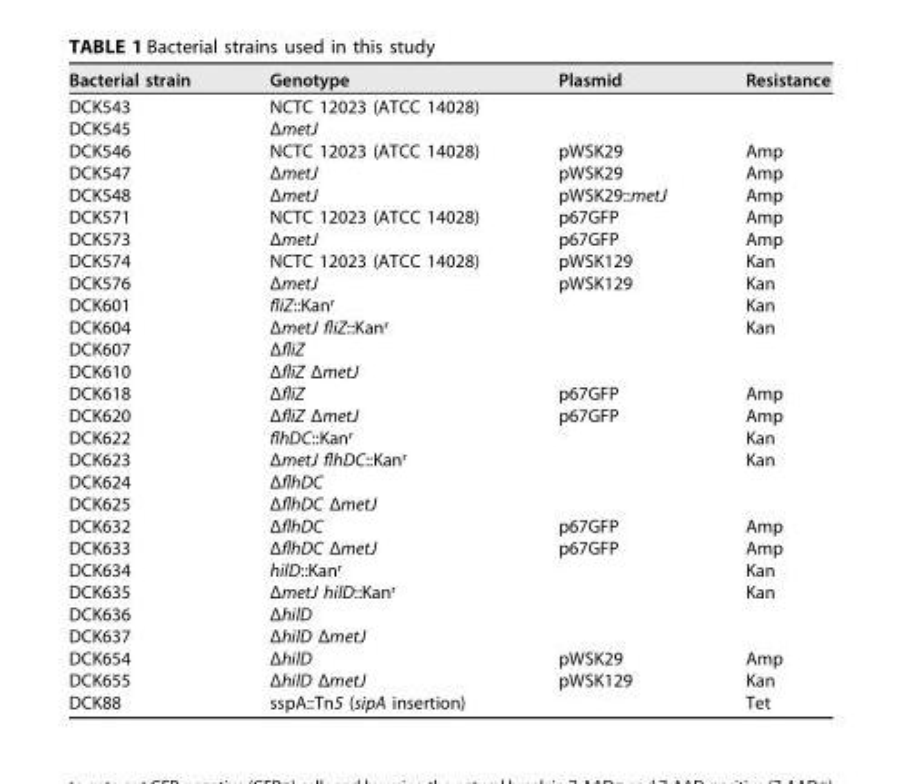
<table><thead><tr><td>Bacterial strain</td><td>Genotype</td><td>Plasmid</td><td>Resistance</td></tr></thead><tbody><tr><td>DCK543</td><td>NCTC 12023 (ATCC 14028)</td><td></td><td></td></tr><tr><td>DCK545</td><td>ΔmetJ</td><td></td><td></td></tr><tr><td>DCK546</td><td>NCTC 12023 (ATCC 14028)</td><td>pWSK29</td><td>Amp</td></tr><tr><td>DCK547</td><td>ΔmetJ</td><td>pWSK29</td><td>Amp</td></tr><tr><td>DCK548</td><td>ΔmetJ</td><td>pWSK29::metJ</td><td>Amp</td></tr><tr><td>DCK571</td><td>NCTC 12023 (ATCC 14028)</td><td>p67GFP</td><td>Amp</td></tr><tr><td>DCK573</td><td>ΔmetJ</td><td>p67GFP</td><td>Amp</td></tr><tr><td>DCK574</td><td>NCTC 12023 (ATCC 14028)</td><td>pWSK129</td><td>Kan</td></tr><tr><td>DCK576</td><td>ΔmetJ</td><td>pWSK129</td><td>Kan</td></tr><tr><td>DCK601</td><td>fliZ::Kan<sup>r</sup></td><td></td><td>Kan</td></tr><tr><td>DCK604</td><td>ΔmetJ fliZ::Kan<sup>r</sup></td><td></td><td>Kan</td></tr><tr><td>DCK607</td><td>ΔfliZ</td><td></td><td></td></tr><tr><td>DCK610</td><td>ΔfliZ ΔmetJ</td><td></td><td></td></tr><tr><td>DCK618</td><td>ΔfliZ</td><td>p67GFP</td><td>Amp</td></tr><tr><td>DCK620</td><td>ΔfliZ ΔmetJ</td><td>p67GFP</td><td>Amp</td></tr><tr><td>DCK622</td><td>flhDC::Kan<sup>r</sup></td><td></td><td>Kan</td></tr><tr><td>DCK623</td><td>ΔmetJ flhDC::Kan<sup>r</sup></td><td></td><td>Kan</td></tr><tr><td>DCK624</td><td>ΔflhDC</td><td></td><td></td></tr><tr><td>DCK625</td><td>ΔflhDC ΔmetJ</td><td></td><td></td></tr><tr><td>DCK632</td><td>ΔflhDC</td><td>p67GFP</td><td>Amp</td></tr><tr><td>DCK633</td><td>ΔflhDC ΔmetJ</td><td>p67GFP</td><td>Amp</td></tr><tr><td>DCK634</td><td>hilD::Kan<sup>r</sup></td><td></td><td>Kan</td></tr><tr><td>DCK635</td><td>ΔmetJ hilD::Kan<sup>r</sup></td><td></td><td>Kan</td></tr><tr><td>DCK636</td><td>ΔhilD</td><td></td><td></td></tr><tr><td>DCK637</td><td>ΔhilD ΔmetJ</td><td></td><td></td></tr><tr><td>DCK654</td><td>ΔhilD</td><td>pWSK29</td><td>Amp</td></tr><tr><td>DCK655</td><td>ΔhilD ΔmetJ</td><td>pWSK129</td><td>Kan</td></tr><tr><td>DCK88</td><td>sspA::Tn5 (sipA insertion)</td><td></td><td>Tet</td></tr></tbody></table>